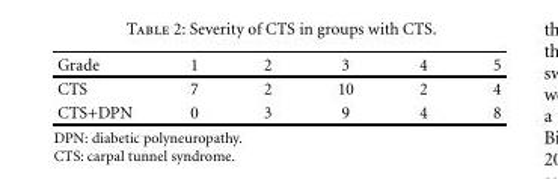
<table><thead><tr><td>Grade</td><td>1</td><td>2</td><td>3</td><td>4</td><td>5</td></tr></thead><tbody><tr><td>CTS</td><td>7</td><td>2</td><td>10</td><td>2</td><td>4</td></tr><tr><td>CTS+DPN</td><td>0</td><td>3</td><td>9</td><td>4</td><td>8</td></tr></tbody></table>